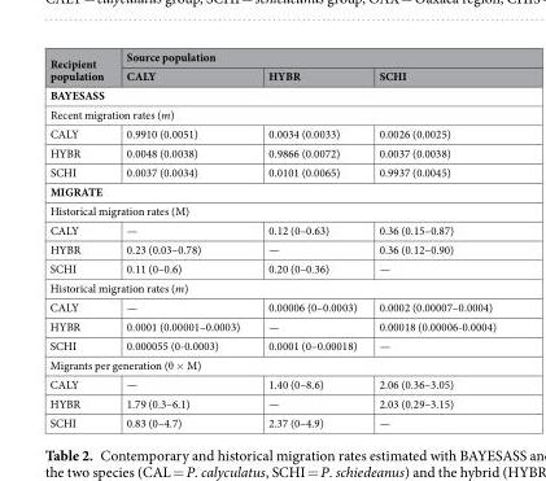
<table><thead><tr><td rowspan="2">Recipient population</td><td colspan="3">Source population</td></tr><tr><td>CALY</td><td>HYBR</td><td>SCHI</td></tr></thead><tbody><tr><td colspan="4">BAYESASS</td></tr><tr><td colspan="4">Recent migration rates (m)</td></tr><tr><td>CALY</td><td>0.9910 (0.0051)</td><td>0.0034 (0.0033)</td><td>0.0026 (0.0025)</td></tr><tr><td>HYBR</td><td>0.0048 (0.0038)</td><td>0.9866 (0.0072)</td><td>0.0037 (0.0038)</td></tr><tr><td>SCHI</td><td>0.0037 (0.0034)</td><td>0.0101 (0.0065)</td><td>0.9937 (0.0045)</td></tr><tr><td colspan="4">MIGRATE</td></tr><tr><td colspan="4">Historical migration rates (M)</td></tr><tr><td>CALY</td><td>—</td><td>0.12 (0–0.63)</td><td>0.36 (0.15–0.87)</td></tr><tr><td>HYBR</td><td>0.23 (0.03–0.78)</td><td>—</td><td>0.36 (0.12–0.90)</td></tr><tr><td>SCHI</td><td>0.11 (0–0.6)</td><td>0.20 (0–0.36)</td><td>—</td></tr><tr><td colspan="4">Historical migration rates (m)</td></tr><tr><td>CALY</td><td>—</td><td>0.00006 (0–0.0003)</td><td>0.0002 (0.00007–0.0004)</td></tr><tr><td>HYBR</td><td>0.0001 (0.00001–0.0003)</td><td>—</td><td>0.00018 (0.00006-0.0004)</td></tr><tr><td>SCHI</td><td>0.000055 (0-0.0003)</td><td>0.0001 (0–0.00018)</td><td>—</td></tr><tr><td colspan="4">Migrants per generation (θ × M)</td></tr><tr><td>CALY</td><td>—</td><td>1.40 (0–8.6)</td><td>2.06 (0.36–3.05)</td></tr><tr><td>HYBR</td><td>1.79 (0.3–6.1)</td><td>—</td><td>2.03 (0.29–3.15)</td></tr><tr><td>SCHI</td><td>0.83 (0–4.7)</td><td>2.37 (0–4.9)</td><td>—</td></tr></tbody></table>